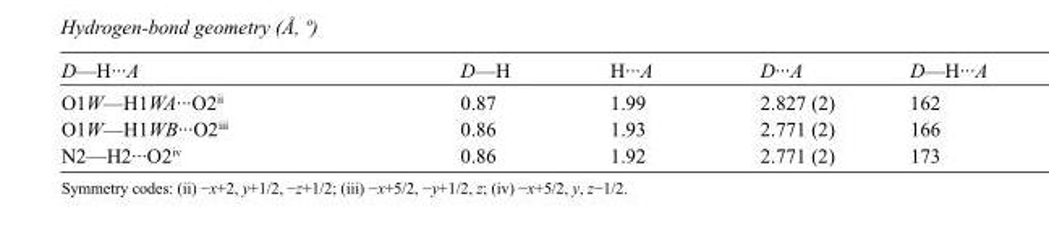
<table><tbody><tr><td>D—H···A</td><td>D—H</td><td>H···A</td><td>D···A</td><td>D—H···A</td></tr><tr><td>O1W—H1WA···O2<sup>ii</sup></td><td>0.87</td><td>1.99</td><td>2.827 (2)</td><td>162</td></tr><tr><td>O1W—H1WB···O2<sup>iii</sup></td><td>0.86</td><td>1.93</td><td>2.771 (2)</td><td>166</td></tr><tr><td>N2—H2···O2<sup>iv</sup></td><td>0.86</td><td>1.92</td><td>2.771 (2)</td><td>173</td></tr></tbody></table>